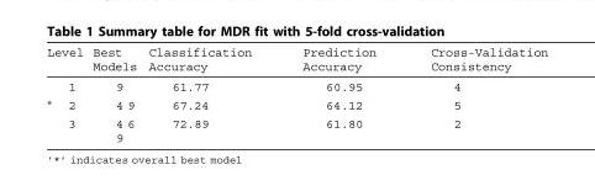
<table><thead><tr><td colspan="2">Level</td><td rowspan="2">Best Models 9</td><td rowspan="2">Classification Accuracy 61.77</td><td rowspan="2">Prediction Accuracy 60.95</td><td rowspan="2">Cross-Validation Consistency 4</td></tr><tr><td></td><td>1</td></tr></thead><tbody><tr><td rowspan="2">*</td><td>2</td><td>4 9</td><td>67.24</td><td>64.12</td><td>5</td></tr><tr><td>3</td><td>4 6 9</td><td>72.89</td><td>61.80</td><td>2</td></tr></tbody></table>